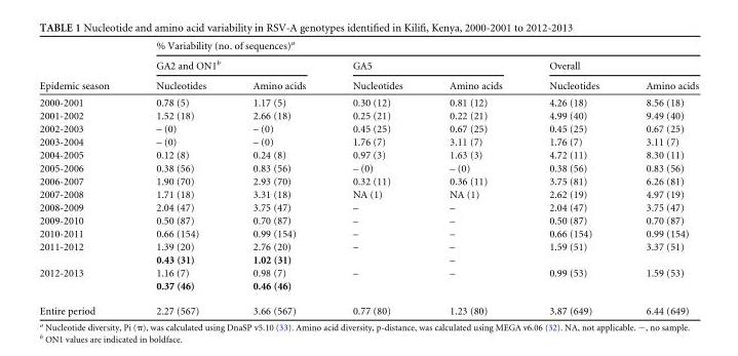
<table><thead><tr><td rowspan="3">Epidemic season</td><td colspan="6">% Variability (no. of sequences)<sup>a</sup></td></tr><tr><td colspan="2">GA2 and ON1<sup>b</sup></td><td colspan="2">GA5</td><td colspan="2">Overall</td></tr><tr><td>Nucleotides</td><td>Amino acids</td><td>Nucleotides</td><td>Amino acids</td><td>Nucleotides</td><td>Amino acids</td></tr></thead><tbody><tr><td>2000-2001</td><td>0.78 (5)</td><td>1.17 (5)</td><td>0.30 (12)</td><td>0.81 (12)</td><td>4.26 (18)</td><td>8.56 (18)</td></tr><tr><td>2001-2002</td><td>1.52 (18)</td><td>2.66 (18)</td><td>0.25 (21)</td><td>0.22 (21)</td><td>4.99 (40)</td><td>9.49 (40)</td></tr><tr><td>2002-2003</td><td>– (0)</td><td>– (0)</td><td>0.45 (25)</td><td>0.67 (25)</td><td>0.45 (25)</td><td>0.67 (25)</td></tr><tr><td>2003-2004</td><td>– (0)</td><td>– (0)</td><td>1.76 (7)</td><td>3.11 (7)</td><td>1.76 (7)</td><td>3.11 (7)</td></tr><tr><td>2004-2005</td><td>0.12 (8)</td><td>0.24 (8)</td><td>0.97 (3)</td><td>1.63 (3)</td><td>4.72 (11)</td><td>8.30 (11)</td></tr><tr><td>2005-2006</td><td>0.38 (56)</td><td>0.83 (56)</td><td>– (0)</td><td>– (0)</td><td>0.38 (56)</td><td>0.83 (56)</td></tr><tr><td>2006-2007</td><td>1.90 (70)</td><td>2.93 (70)</td><td>0.32 (11)</td><td>0.36 (11)</td><td>3.75 (81)</td><td>6.26 (81)</td></tr><tr><td>2007-2008</td><td>1.71 (18)</td><td>3.31 (18)</td><td>NA (1)</td><td>NA (1)</td><td>2.62 (19)</td><td>4.97 (19)</td></tr><tr><td>2008-2009</td><td>2.04 (47)</td><td>3.75 (47)</td><td>–</td><td>–</td><td>2.04 (47)</td><td>3.75 (47)</td></tr><tr><td>2009-2010</td><td>0.50 (87)</td><td>0.70 (87)</td><td>–</td><td>–</td><td>0.50 (87)</td><td>0.70 (87)</td></tr><tr><td>2010-2011</td><td>0.66 (154)</td><td>0.99 (154)</td><td>–</td><td>–</td><td>0.66 (154)</td><td>0.99 (154)</td></tr><tr><td rowspan="2">2011-2012</td><td>1.39 (20)</td><td>2.76 (20)</td><td>–</td><td>–</td><td>1.59 (51)</td><td>3.37 (51)</td></tr><tr><td>0.43 (31)</td><td>1.02 (31)</td><td></td><td>–</td><td></td><td></td></tr><tr><td rowspan="2">2012-2013</td><td>1.16 (7)</td><td>0.98 (7)</td><td>–</td><td>–</td><td>0.99 (53)</td><td>1.59 (53)</td></tr><tr><td>0.37 (46)</td><td>0.46 (46)</td><td></td><td></td><td></td><td></td></tr><tr><td>Entire period</td><td>2.27 (567)</td><td>3.66 (567)</td><td>0.77 (80)</td><td>1.23 (80)</td><td>3.87 (649)</td><td>6.44 (649)</td></tr></tbody></table>